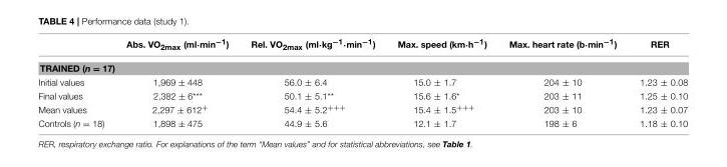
<table><thead><tr><td></td><td>Abs. VO<sub>2max</sub> (ml·min<sup>−1</sup>)</td><td>Rel. VO<sub>2max</sub> (ml·kg<sup>−1</sup>·min<sup>−1</sup>)</td><td>Max. speed (km·h<sup>−1</sup>)</td><td>Max. heart rate (b·min<sup>−1</sup>)</td><td>RER</td></tr></thead><tbody><tr><td colspan="6">TRAINED (n = 17)</td></tr><tr><td>Initial values</td><td>1,969 ± 448</td><td>56.0 ± 6.4</td><td>15.0 ± 1.7</td><td>204 ± 10</td><td>1.23 ± 0.08</td></tr><tr><td>Final values</td><td>2,382 ± 6***</td><td>50.1 ± 5.1**</td><td>15.6 ± 1.6*</td><td>203 ± 11</td><td>1.25 ± 0.10</td></tr><tr><td>Mean values</td><td>2,297 ± 612<sup>+</sup></td><td>54.4 ± 5.2<sup>+++</sup></td><td>15.4 ± 1.5<sup>+++</sup></td><td>203 ± 10</td><td>1.23 ± 0.07</td></tr><tr><td>Controls (n = 18)</td><td>1,898 ± 475</td><td>44.9 ± 5.6</td><td>12.1 ± 1.7</td><td>198 ± 6</td><td>1.18 ± 0.10</td></tr></tbody></table>